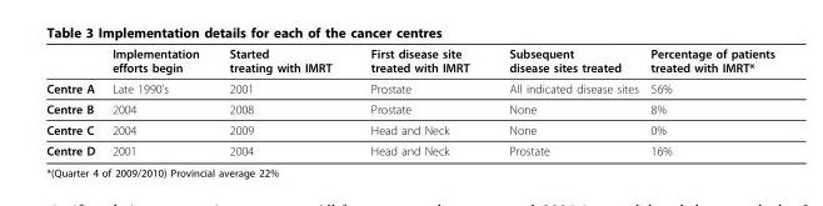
<table><thead><tr><td></td><td>Implementation efforts begin</td><td>Started treating with IMRT</td><td>First disease site treated with IMRT</td><td>Subsequent disease sites treated</td><td>Percentage of patients treated with IMRT*</td></tr></thead><tbody><tr><td>Centre A</td><td>Late 1990’s</td><td>2001</td><td>Prostate</td><td>All indicated disease sites</td><td>56%</td></tr><tr><td>Centre B</td><td>2004</td><td>2008</td><td>Prostate</td><td>None</td><td>8%</td></tr><tr><td>Centre C</td><td>2004</td><td>2009</td><td>Head and Neck</td><td>None</td><td>0%</td></tr><tr><td>Centre D</td><td>2001</td><td>2004</td><td>Head and Neck</td><td>Prostate</td><td>16%</td></tr></tbody></table>